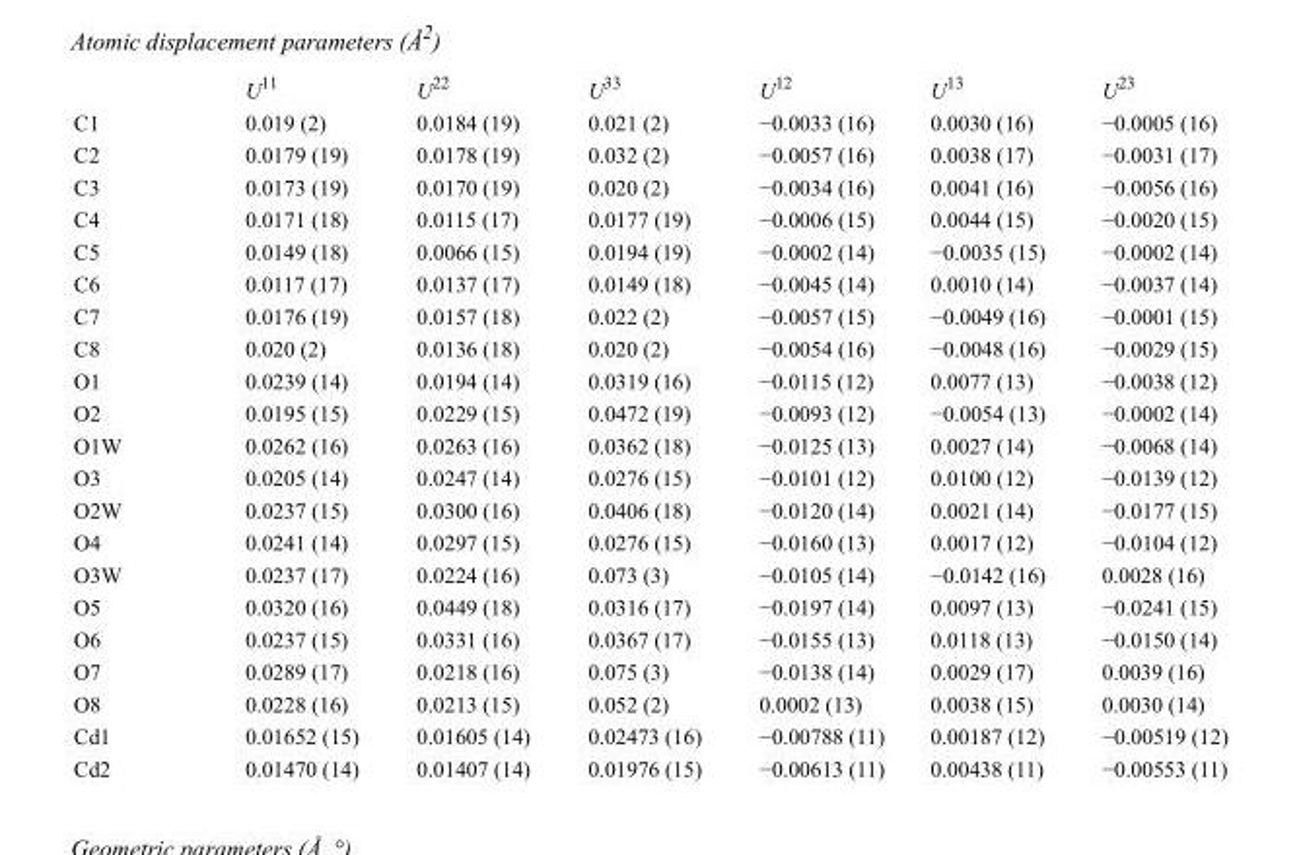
<table><thead><tr><td></td><td>U<sup>11</sup></td><td>U<sup>22</sup></td><td>U<sup>33</sup></td><td>U<sup>12</sup></td><td>U<sup>13</sup></td><td>U<sup>23</sup></td></tr></thead><tbody><tr><td>C1</td><td>0.019 (2)</td><td>0.0184 (19)</td><td>0.021 (2)</td><td>−0.0033 (16)</td><td>0.0030 (16)</td><td>−0.0005 (16)</td></tr><tr><td>C2</td><td>0.0179 (19)</td><td>0.0178 (19)</td><td>0.032 (2)</td><td>−0.0057 (16)</td><td>0.0038 (17)</td><td>−0.0031 (17)</td></tr><tr><td>C3</td><td>0.0173 (19)</td><td>0.0170 (19)</td><td>0.020 (2)</td><td>−0.0034 (16)</td><td>0.0041 (16)</td><td>−0.0056 (16)</td></tr><tr><td>C4</td><td>0.0171 (18)</td><td>0.0115 (17)</td><td>0.0177 (19)</td><td>−0.0006 (15)</td><td>0.0044 (15)</td><td>−0.0020 (15)</td></tr><tr><td>C5</td><td>0.0149 (18)</td><td>0.0066 (15)</td><td>0.0194 (19)</td><td>−0.0002 (14)</td><td>−0.0035 (15)</td><td>−0.0002 (14)</td></tr><tr><td>C6</td><td>0.0117 (17)</td><td>0.0137 (17)</td><td>0.0149 (18)</td><td>−0.0045 (14)</td><td>0.0010 (14)</td><td>−0.0037 (14)</td></tr><tr><td>C7</td><td>0.0176 (19)</td><td>0.0157 (18)</td><td>0.022 (2)</td><td>−0.0057 (15)</td><td>−0.0049 (16)</td><td>−0.0001 (15)</td></tr><tr><td>C8</td><td>0.020 (2)</td><td>0.0136 (18)</td><td>0.020 (2)</td><td>−0.0054 (16)</td><td>−0.0048 (16)</td><td>−0.0029 (15)</td></tr><tr><td>O1</td><td>0.0239 (14)</td><td>0.0194 (14)</td><td>0.0319 (16)</td><td>−0.0115 (12)</td><td>0.0077 (13)</td><td>−0.0038 (12)</td></tr><tr><td>O2</td><td>0.0195 (15)</td><td>0.0229 (15)</td><td>0.0472 (19)</td><td>−0.0093 (12)</td><td>−0.0054 (13)</td><td>−0.0002 (14)</td></tr><tr><td>O1W</td><td>0.0262 (16)</td><td>0.0263 (16)</td><td>0.0362 (18)</td><td>−0.0125 (13)</td><td>0.0027 (14)</td><td>−0.0068 (14)</td></tr><tr><td>O3</td><td>0.0205 (14)</td><td>0.0247 (14)</td><td>0.0276 (15)</td><td>−0.0101 (12)</td><td>0.0100 (12)</td><td>−0.0139 (12)</td></tr><tr><td>O2W</td><td>0.0237 (15)</td><td>0.0300 (16)</td><td>0.0406 (18)</td><td>−0.0120 (14)</td><td>0.0021 (14)</td><td>−0.0177 (15)</td></tr><tr><td>O4</td><td>0.0241 (14)</td><td>0.0297 (15)</td><td>0.0276 (15)</td><td>−0.0160 (13)</td><td>0.0017 (12)</td><td>−0.0104 (12)</td></tr><tr><td>O3W</td><td>0.0237 (17)</td><td>0.0224 (16)</td><td>0.073 (3)</td><td>−0.0105 (14)</td><td>−0.0142 (16)</td><td>0.0028 (16)</td></tr><tr><td>O5</td><td>0.0320 (16)</td><td>0.0449 (18)</td><td>0.0316 (17)</td><td>−0.0197 (14)</td><td>0.0097 (13)</td><td>−0.0241 (15)</td></tr><tr><td>O6</td><td>0.0237 (15)</td><td>0.0331 (16)</td><td>0.0367 (17)</td><td>−0.0155 (13)</td><td>0.0118 (13)</td><td>−0.0150 (14)</td></tr><tr><td>O7</td><td>0.0289 (17)</td><td>0.0218 (16)</td><td>0.075 (3)</td><td>−0.0138 (14)</td><td>0.0029 (17)</td><td>0.0039 (16)</td></tr><tr><td>O8</td><td>0.0228 (16)</td><td>0.0213 (15)</td><td>0.052 (2)</td><td>0.0002 (13)</td><td>0.0038 (15)</td><td>0.0030 (14)</td></tr><tr><td>Cd1</td><td>0.01652 (15)</td><td>0.01605 (14)</td><td>0.02473 (16)</td><td>−0.00788 (11)</td><td>0.00187 (12)</td><td>−0.00519 (12)</td></tr><tr><td>Cd2</td><td>0.01470 (14)</td><td>0.01407 (14)</td><td>0.01976 (15)</td><td>−0.00613 (11)</td><td>0.00438 (11)</td><td>−0.00553 (11)</td></tr></tbody></table>